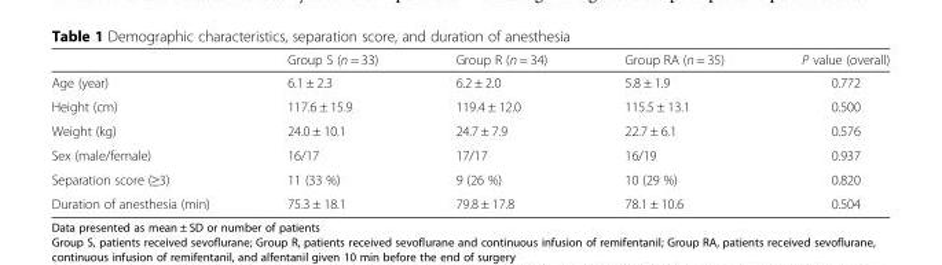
<table><thead><tr><td></td><td>Group S (n = 33)</td><td>Group R (n = 34)</td><td>Group RA (n = 35)</td><td>P value (overall)</td></tr></thead><tbody><tr><td>Age (year)</td><td>6.1 ± 2.3</td><td>6.2 ± 2.0</td><td>5.8 ± 1.9</td><td>0.772</td></tr><tr><td>Height (cm)</td><td>117.6 ± 15.9</td><td>119.4 ± 12.0</td><td>115.5 ± 13.1</td><td>0.500</td></tr><tr><td>Weight (kg)</td><td>24.0 ± 10.1</td><td>24.7 ± 7.9</td><td>22.7 ± 6.1</td><td>0.576</td></tr><tr><td>Sex (male/female)</td><td>16/17</td><td>17/17</td><td>16/19</td><td>0.937</td></tr><tr><td>Separation score (≥3)</td><td>11 (33 %)</td><td>9 (26 %)</td><td>10 (29 %)</td><td>0.820</td></tr><tr><td>Duration of anesthesia (min)</td><td>75.3 ± 18.1</td><td>79.8 ± 17.8</td><td>78.1 ± 10.6</td><td>0.504</td></tr></tbody></table>